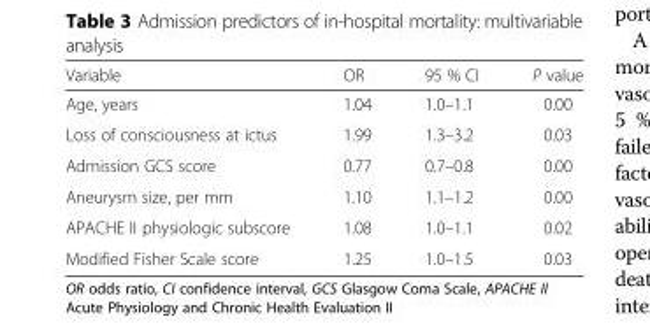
<table><thead><tr><td>Variable</td><td>OR</td><td>95 % CI</td><td>P value</td></tr></thead><tbody><tr><td>Age, years</td><td>1.04</td><td>1.0–1.1</td><td>0.00</td></tr><tr><td>Loss of consciousness at ictus</td><td>1.99</td><td>1.3–3.2</td><td>0.03</td></tr><tr><td>Admission GCS score</td><td>0.77</td><td>0.7–0.8</td><td>0.00</td></tr><tr><td>Aneurysm size, per mm</td><td>1.10</td><td>1.1–1.2</td><td>0.00</td></tr><tr><td>APACHE II physiologic subscore</td><td>1.08</td><td>1.0–1.1</td><td>0.02</td></tr><tr><td>Modified Fisher Scale score</td><td>1.25</td><td>1.0–1.5</td><td>0.03</td></tr></tbody></table>